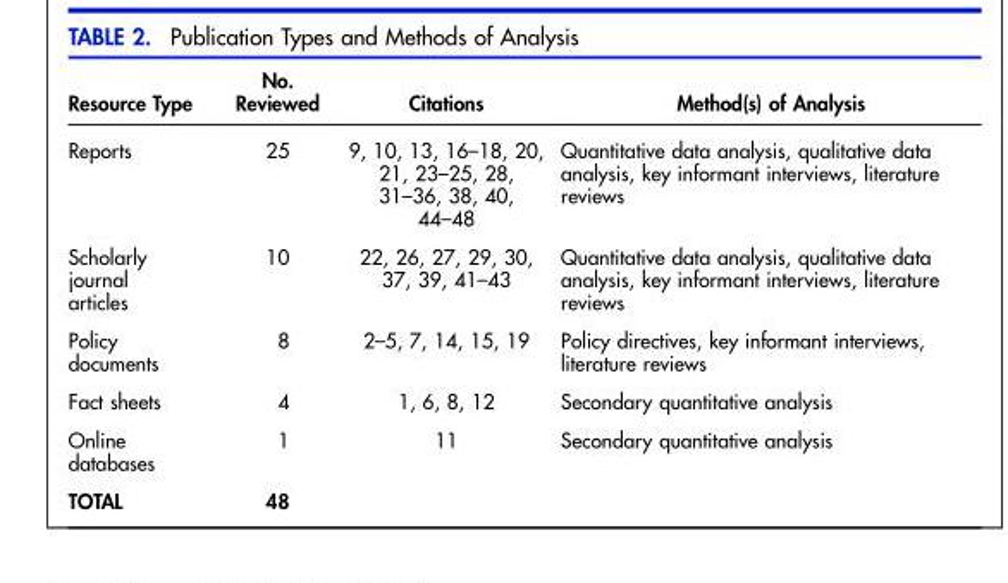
<table><thead><tr><td>Resource Type</td><td>No. Reviewed</td><td>Citations</td><td>Method(s) of Analysis</td></tr></thead><tbody><tr><td>Reports</td><td>25</td><td>9, 10, 13, 16–18, 20, 21, 23–25, 28, 31–36, 38, 40, 44–48</td><td>Quantitative data analysis, qualitative data analysis, key informant interviews, literature reviews</td></tr><tr><td>Scholarly journal articles</td><td>10</td><td>22, 26, 27, 29, 30, 37, 39, 41–43</td><td>Quantitative data analysis, qualitative data analysis, key informant interviews, literature reviews</td></tr><tr><td>Policy documents</td><td>8</td><td>2–5, 7, 14, 15, 19</td><td>Policy directives, key informant interviews, literature reviews</td></tr><tr><td>Fact sheets</td><td>4</td><td>1, 6, 8, 12</td><td>Secondary quantitative analysis</td></tr><tr><td>Online databases</td><td>1</td><td>11</td><td>Secondary quantitative analysis</td></tr><tr><td>TOTAL</td><td>48</td><td></td><td></td></tr></tbody></table>